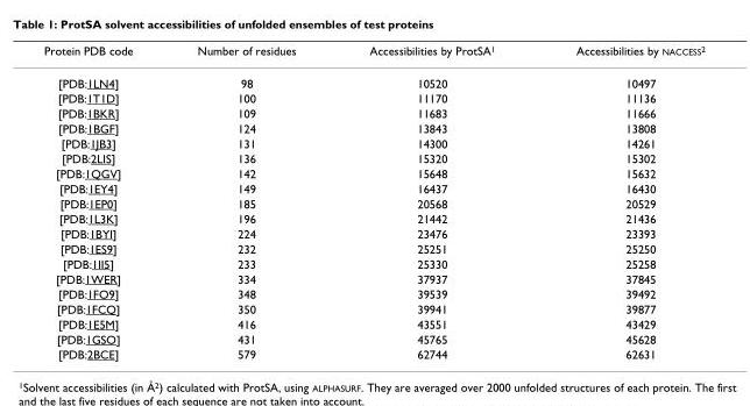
<table><thead><tr><td>Protein PDB code</td><td>Number of residues</td><td>Accessibilities by ProtSA<sup>1</sup></td><td>Accessibilities by NACCESS<sup>2</sup></td></tr></thead><tbody><tr><td>[PDB:1LN4]</td><td>98</td><td>10520</td><td>10497</td></tr><tr><td>[PDB:1T1D]</td><td>100</td><td>11170</td><td>11136</td></tr><tr><td>[PDB:1BKR]</td><td>109</td><td>11683</td><td>11666</td></tr><tr><td>[PDB:1BGF]</td><td>124</td><td>13843</td><td>13808</td></tr><tr><td>[PDB:1JB3]</td><td>131</td><td>14300</td><td>14261</td></tr><tr><td>[PDB:2LIS]</td><td>136</td><td>15320</td><td>15302</td></tr><tr><td>[PDB:1QGV]</td><td>142</td><td>15648</td><td>15632</td></tr><tr><td>[PDB:1EY4]</td><td>149</td><td>16437</td><td>16430</td></tr><tr><td>[PDB:1EP0]</td><td>185</td><td>20568</td><td>20529</td></tr><tr><td>[PDB:1L3K]</td><td>196</td><td>21442</td><td>21436</td></tr><tr><td>[PDB:1BYI]</td><td>224</td><td>23476</td><td>23393</td></tr><tr><td>[PDB:1ES9]</td><td>232</td><td>25251</td><td>25250</td></tr><tr><td>[PDB:1II5]</td><td>233</td><td>25330</td><td>25258</td></tr><tr><td>[PDB:1WER]</td><td>334</td><td>37937</td><td>37845</td></tr><tr><td>[PDB:1FO9]</td><td>348</td><td>39539</td><td>39492</td></tr><tr><td>[PDB:1FCQ]</td><td>350</td><td>39941</td><td>39877</td></tr><tr><td>[PDB:1E5M]</td><td>416</td><td>43551</td><td>43429</td></tr><tr><td>[PDB:1GSO]</td><td>431</td><td>45765</td><td>45628</td></tr><tr><td>[PDB:2BCE]</td><td>579</td><td>62744</td><td>62631</td></tr></tbody></table>